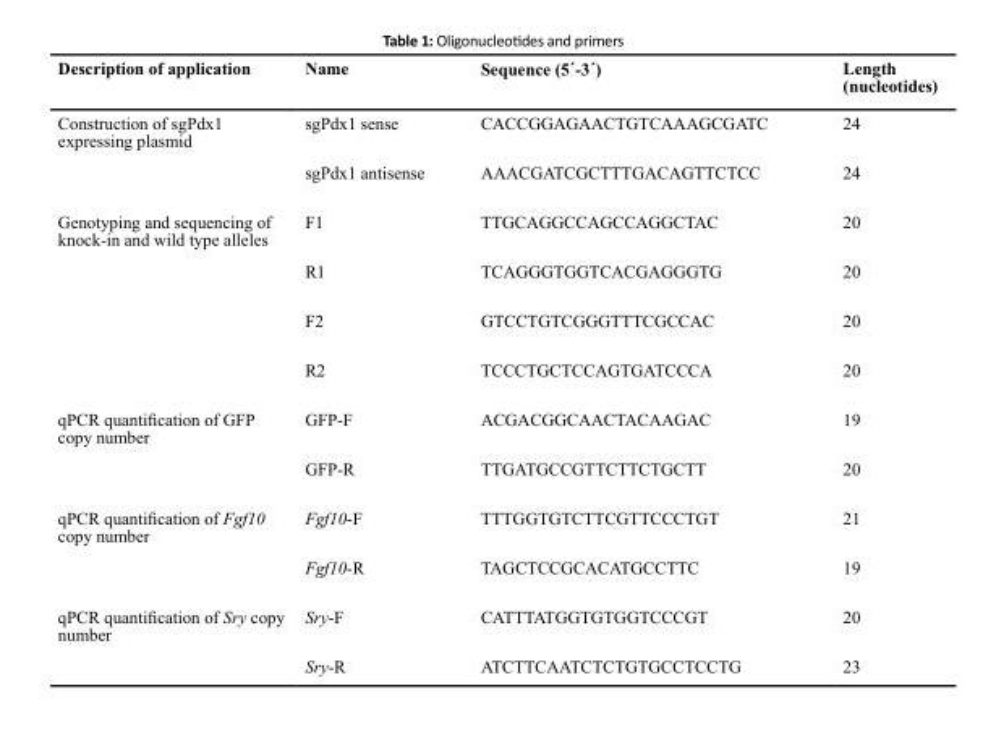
<table><thead><tr><td>Description of application</td><td>Name</td><td>Sequence (5´-3´)</td><td>Length (nucleotides)</td></tr></thead><tbody><tr><td rowspan="2">Construction of sgPdx1 expressing plasmid</td><td>sgPdx1 sense</td><td>CACCGGAGAACTGTCAAAGCGATC</td><td>24</td></tr><tr><td>sgPdx1 antisense</td><td>AAACGATCGCTTTGACAGTTCTCC</td><td>24</td></tr><tr><td rowspan="4">Genotyping and sequencing of knock-in and wild type alleles</td><td>F1</td><td>TTGCAGGCCAGCCAGGCTAC</td><td>20</td></tr><tr><td>R1</td><td>TCAGGGTGGTCACGAGGGTG</td><td>20</td></tr><tr><td>F2</td><td>GTCCTGTCGGGTTTCGCCAC</td><td>20</td></tr><tr><td>R2</td><td>TCCCTGCTCCAGTGATCCCA</td><td>20</td></tr><tr><td rowspan="2">qPCR quantification of GFP copy number</td><td>GFP-F</td><td>ACGACGGCAACTACAAGAC</td><td>19</td></tr><tr><td>GFP-R</td><td>TTGATGCCGTTCTTCTGCTT</td><td>20</td></tr><tr><td rowspan="2">qPCR quantification of Fgf10 copy number</td><td>Fgf10-F</td><td>TTTGGTGTCTTCGTTCCCTGT</td><td>21</td></tr><tr><td>Fgf10-R</td><td>TAGCTCCGCACATGCCTTC</td><td>19</td></tr><tr><td rowspan="2">qPCR quantification of Sry copy number</td><td>Sry-F</td><td>CATTTATGGTGTGGTCCCGT</td><td>20</td></tr><tr><td>Sry-R</td><td>ATCTTCAATCTCTGTGCCTCCTG</td><td>23</td></tr></tbody></table>